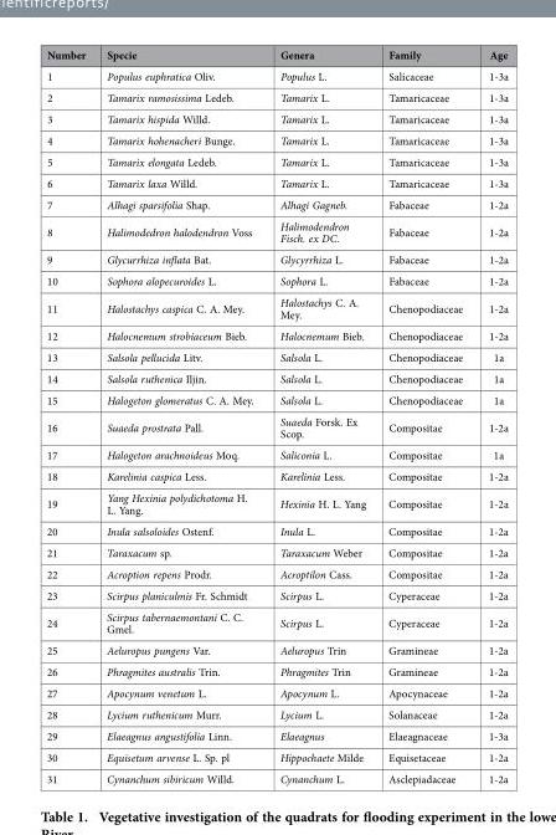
<table><thead><tr><td>Number</td><td>Specie</td><td>Genera</td><td>Family</td><td>Age</td></tr></thead><tbody><tr><td>1</td><td>Populus euphratica Oliv.</td><td>Populus L.</td><td>Salicaceae</td><td>1-3a</td></tr><tr><td>2</td><td>Tamarix ramosissima Ledeb.</td><td>Tamarix L.</td><td>Tamaricaceae</td><td>1-3a</td></tr><tr><td>3</td><td>Tamarix hispida Willd.</td><td>Tamarix L.</td><td>Tamaricaceae</td><td>1-3a</td></tr><tr><td>4</td><td>Tamarix hohenacheri Bunge.</td><td>Tamarix L.</td><td>Tamaricaceae</td><td>1-3a</td></tr><tr><td>5</td><td>Tamarix elongata Ledeb.</td><td>Tamarix L.</td><td>Tamaricaceae</td><td>1-3a</td></tr><tr><td>6</td><td>Tamarix laxa Willd.</td><td>Tamarix L.</td><td>Tamaricaceae</td><td>1-3a</td></tr><tr><td>7</td><td>Alhagi sparsifolia Shap.</td><td>Alhagi Gagneb.</td><td>Fabaceae</td><td>1-2a</td></tr><tr><td>8</td><td>Halimodedron halodendron Voss</td><td>Halimodendron Fisch. ex DC.</td><td>Fabaceae</td><td>1-2a</td></tr><tr><td>9</td><td>Glycurrhiza inflata Bat.</td><td>Glycyrrhiza L.</td><td>Fabaceae</td><td>1-2a</td></tr><tr><td>10</td><td>Sophora alopecuroides L.</td><td>Sophora L.</td><td>Fabaceae</td><td>1-2a</td></tr><tr><td>11</td><td>Halostachys caspica C. A. Mey.</td><td>Halostachys C. A. Mey.</td><td>Chenopodiaceae</td><td>1-2a</td></tr><tr><td>12</td><td>Halocnemum strobiaceum Bieb.</td><td>Halocnemum Bieb.</td><td>Chenopodiaceae</td><td>1-2a</td></tr><tr><td>13</td><td>Salsola pellucida Litv.</td><td>Salsola L.</td><td>Chenopodiaceae</td><td>1a</td></tr><tr><td>14</td><td>Salsola ruthenica Iljin.</td><td>Salsola L.</td><td>Chenopodiaceae</td><td>1a</td></tr><tr><td>15</td><td>Halogeton glomeratus C. A. Mey.</td><td>Salsola L.</td><td>Chenopodiaceae</td><td>1a</td></tr><tr><td>16</td><td>Suaeda prostrata Pall.</td><td>Suaeda Forsk. Ex Scop.</td><td>Compositae</td><td>1-2a</td></tr><tr><td>17</td><td>Halogeton arachnoideus Moq.</td><td>Saliconia L.</td><td>Compositae</td><td>1a</td></tr><tr><td>18</td><td>Karelinia caspica Less.</td><td>Karelinia Less.</td><td>Compositae</td><td>1-2a</td></tr><tr><td>19</td><td>Yang Hexinia polydichotoma H. L. Yang.</td><td>Hexinia H. L. Yang</td><td>Compositae</td><td>1-2a</td></tr><tr><td>20</td><td>Inula salsoloides Ostenf.</td><td>Inula L.</td><td>Compositae</td><td>1-2a</td></tr><tr><td>21</td><td>Taraxacum sp.</td><td>Taraxacum Weber</td><td>Compositae</td><td>1-2a</td></tr><tr><td>22</td><td>Acroption repens Prodr.</td><td>Acroptilon Cass.</td><td>Compositae</td><td>1-2a</td></tr><tr><td>23</td><td>Scirpus planiculmis Fr. Schmidt</td><td>Scirpus L.</td><td>Cyperaceae</td><td>1-2a</td></tr><tr><td>24</td><td>Scirpus tabernaemontani C. C. Gmel.</td><td>Scirpus L.</td><td>Cyperaceae</td><td>1-2a</td></tr><tr><td>25</td><td>Aeluropus pungens Var.</td><td>Aeluropus Trin</td><td>Gramineae</td><td>1-2a</td></tr><tr><td>26</td><td>Phragmites australis Trin.</td><td>Phragmites Trin</td><td>Gramineae</td><td>1-2a</td></tr><tr><td>27</td><td>Apocynum venetum L.</td><td>Apocynum L.</td><td>Apocynaceae</td><td>1-2a</td></tr><tr><td>28</td><td>Lycium ruthenicum Murr.</td><td>Lycium L.</td><td>Solanaceae</td><td>1-2a</td></tr><tr><td>29</td><td>Elaeagnus angustifolia Linn.</td><td>Elaeagnus</td><td>Elaeagnaceae</td><td>1-3a</td></tr><tr><td>30</td><td>Equisetum arvense L. Sp. pl</td><td>Hippochaete Milde</td><td>Equisetaceae</td><td>1-2a</td></tr><tr><td>31</td><td>Cynanchum sibiricum Willd.</td><td>Cynanchum L.</td><td>Asclepiadaceae</td><td>1-2a</td></tr></tbody></table>